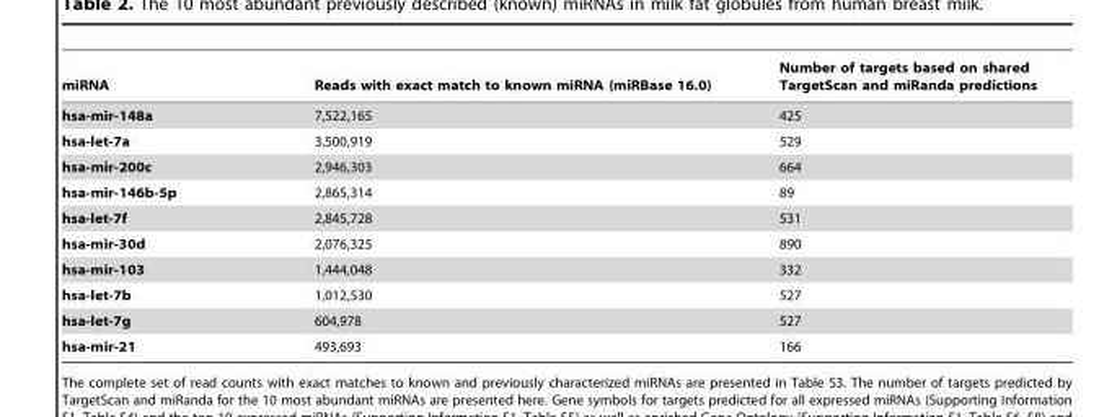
<table><thead><tr><td>miRNA</td><td>Reads with exact match to known miRNA (miRBase 16.0)</td><td>Number of targets based on shared TargetScan and miRanda predictions</td></tr></thead><tbody><tr><td>hsa-mir-148a</td><td>7,522,165</td><td>425</td></tr><tr><td>hsa-let-7a</td><td>3,500,919</td><td>529</td></tr><tr><td>hsa-mir-200c</td><td>2,946,303</td><td>664</td></tr><tr><td>hsa-mir-146b-5p</td><td>2,865,314</td><td>89</td></tr><tr><td>hsa-let-7f</td><td>2,845,728</td><td>531</td></tr><tr><td>hsa-mir-30d</td><td>2,076,325</td><td>890</td></tr><tr><td>hsa-mir-103</td><td>1,444,048</td><td>332</td></tr><tr><td>hsa-let-7b</td><td>1,012,530</td><td>527</td></tr><tr><td>hsa-let-7g</td><td>604,978</td><td>527</td></tr><tr><td>hsa-mir-21</td><td>493,693</td><td>166</td></tr></tbody></table>